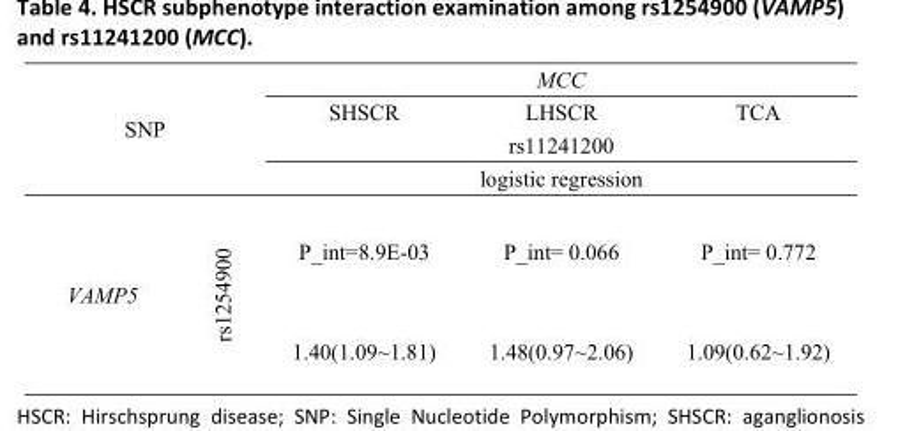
<table><tbody><tr><td rowspan="4" colspan="2">SNP</td><td colspan="3">MCC</td></tr><tr><td>SHSCR</td><td>LHSCR</td><td>TCA</td></tr><tr><td colspan="3">rs11241200</td></tr><tr><td colspan="3">logistic regression</td></tr><tr><td rowspan="2">VAMP5</td><td rowspan="2">rs1254900</td><td>P_int=8.9E-03</td><td>P_int= 0.066</td><td>P_int= 0.772</td></tr><tr><td>1.40(1.09~1.81)</td><td>1.48(0.97~2.06)</td><td>1.09(0.62~1.92)</td></tr></tbody></table>